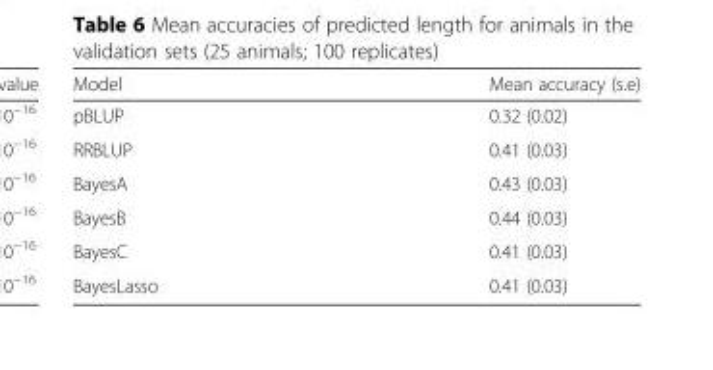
<table><thead><tr><td>Model</td><td>Mean accuracy (s.e)</td></tr></thead><tbody><tr><td>pBLUP</td><td>0.32 (0.02)</td></tr><tr><td>RRBLUP</td><td>0.41 (0.03)</td></tr><tr><td>BayesA</td><td>0.43 (0.03)</td></tr><tr><td>BayesB</td><td>0.44 (0.03)</td></tr><tr><td>BayesC</td><td>0.41 (0.03)</td></tr><tr><td>BayesLasso</td><td>0.41 (0.03)</td></tr></tbody></table>